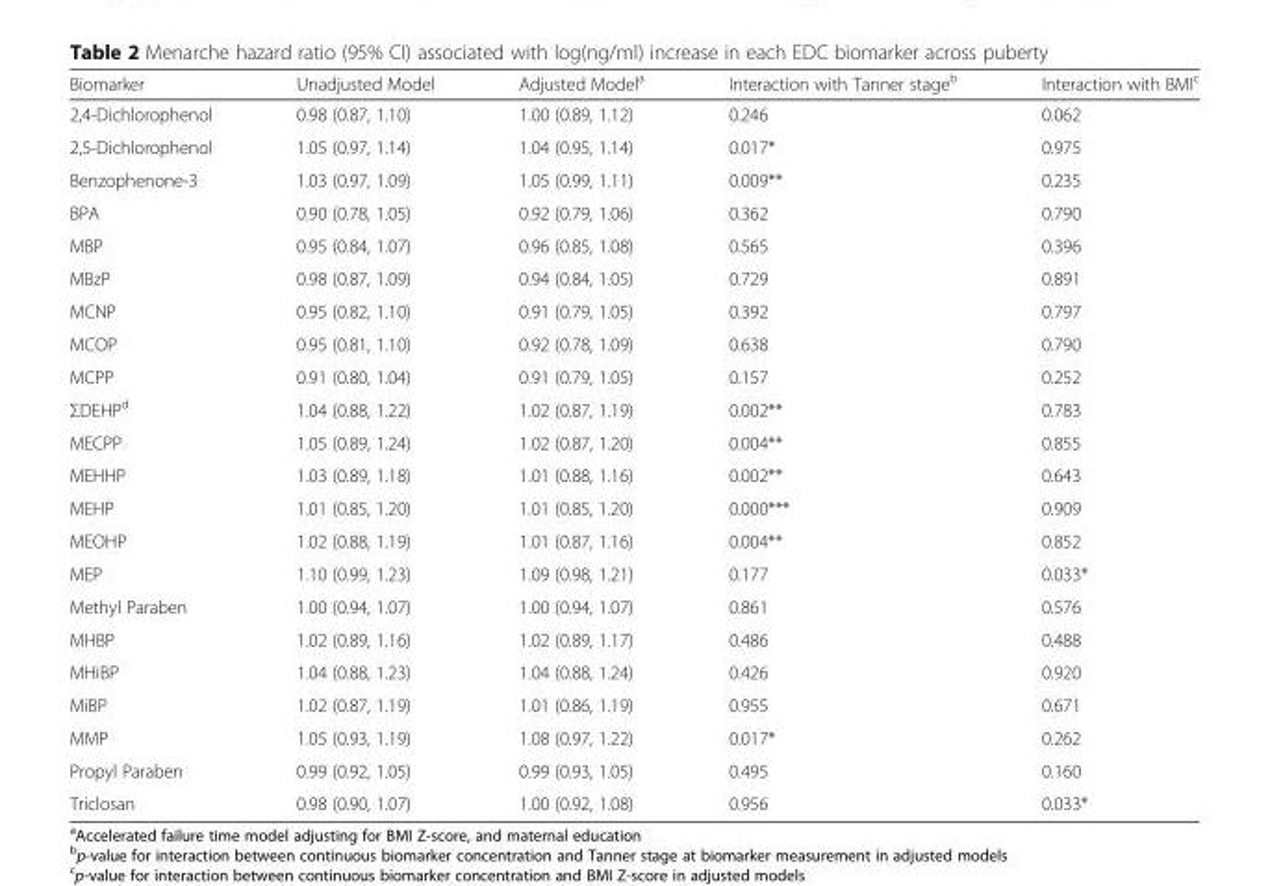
<table><thead><tr><td>Biomarker</td><td>Unadjusted Model</td><td>Adjusted Model<sup>a</sup></td><td>Interaction with Tanner stage<sup>b</sup></td><td>Interaction with BMI<sup>c</sup></td></tr></thead><tbody><tr><td>2,4-Dichlorophenol</td><td>0.98 (0.87, 1.10)</td><td>1.00 (0.89, 1.12)</td><td>0.246</td><td>0.062</td></tr><tr><td>2,5-Dichlorophenol</td><td>1.05 (0.97, 1.14)</td><td>1.04 (0.95, 1.14)</td><td>0.017*</td><td>0.975</td></tr><tr><td>Benzophenone-3</td><td>1.03 (0.97, 1.09)</td><td>1.05 (0.99, 1.11)</td><td>0.009**</td><td>0.235</td></tr><tr><td>BPA</td><td>0.90 (0.78, 1.05)</td><td>0.92 (0.79, 1.06)</td><td>0.362</td><td>0.790</td></tr><tr><td>MBP</td><td>0.95 (0.84, 1.07)</td><td>0.96 (0.85, 1.08)</td><td>0.565</td><td>0.396</td></tr><tr><td>MBzP</td><td>0.98 (0.87, 1.09)</td><td>0.94 (0.84, 1.05)</td><td>0.729</td><td>0.891</td></tr><tr><td>MCNP</td><td>0.95 (0.82, 1.10)</td><td>0.91 (0.79, 1.05)</td><td>0.392</td><td>0.797</td></tr><tr><td>MCOP</td><td>0.95 (0.81, 1.10)</td><td>0.92 (0.78, 1.09)</td><td>0.638</td><td>0.790</td></tr><tr><td>MCPP</td><td>0.91 (0.80, 1.04)</td><td>0.91 (0.79, 1.05)</td><td>0.157</td><td>0.252</td></tr><tr><td>ΣDEHP<sup>d</sup></td><td>1.04 (0.88, 1.22)</td><td>1.02 (0.87, 1.19)</td><td>0.002**</td><td>0.783</td></tr><tr><td>MECPP</td><td>1.05 (0.89, 1.24)</td><td>1.02 (0.87, 1.20)</td><td>0.004**</td><td>0.855</td></tr><tr><td>MEHHP</td><td>1.03 (0.89, 1.18)</td><td>1.01 (0.88, 1.16)</td><td>0.002**</td><td>0.643</td></tr><tr><td>MEHP</td><td>1.01 (0.85, 1.20)</td><td>1.01 (0.85, 1.20)</td><td>0.000***</td><td>0.909</td></tr><tr><td>MEOHP</td><td>1.02 (0.88, 1.19)</td><td>1.01 (0.87, 1.16)</td><td>0.004**</td><td>0.852</td></tr><tr><td>MEP</td><td>1.10 (0.99, 1.23)</td><td>1.09 (0.98, 1.21)</td><td>0.177</td><td>0.033*</td></tr><tr><td>Methyl Paraben</td><td>1.00 (0.94, 1.07)</td><td>1.00 (0.94, 1.07)</td><td>0.861</td><td>0.576</td></tr><tr><td>MHBP</td><td>1.02 (0.89, 1.16)</td><td>1.02 (0.89, 1.17)</td><td>0.486</td><td>0.488</td></tr><tr><td>MHiBP</td><td>1.04 (0.88, 1.23)</td><td>1.04 (0.88, 1.24)</td><td>0.426</td><td>0.920</td></tr><tr><td>MiBP</td><td>1.02 (0.87, 1.19)</td><td>1.01 (0.86, 1.19)</td><td>0.955</td><td>0.671</td></tr><tr><td>MMP</td><td>1.05 (0.93, 1.19)</td><td>1.08 (0.97, 1.22)</td><td>0.017*</td><td>0.262</td></tr><tr><td>Propyl Paraben</td><td>0.99 (0.92, 1.05)</td><td>0.99 (0.93, 1.05)</td><td>0.495</td><td>0.160</td></tr><tr><td>Triclosan</td><td>0.98 (0.90, 1.07)</td><td>1.00 (0.92, 1.08)</td><td>0.956</td><td>0.033*</td></tr></tbody></table>